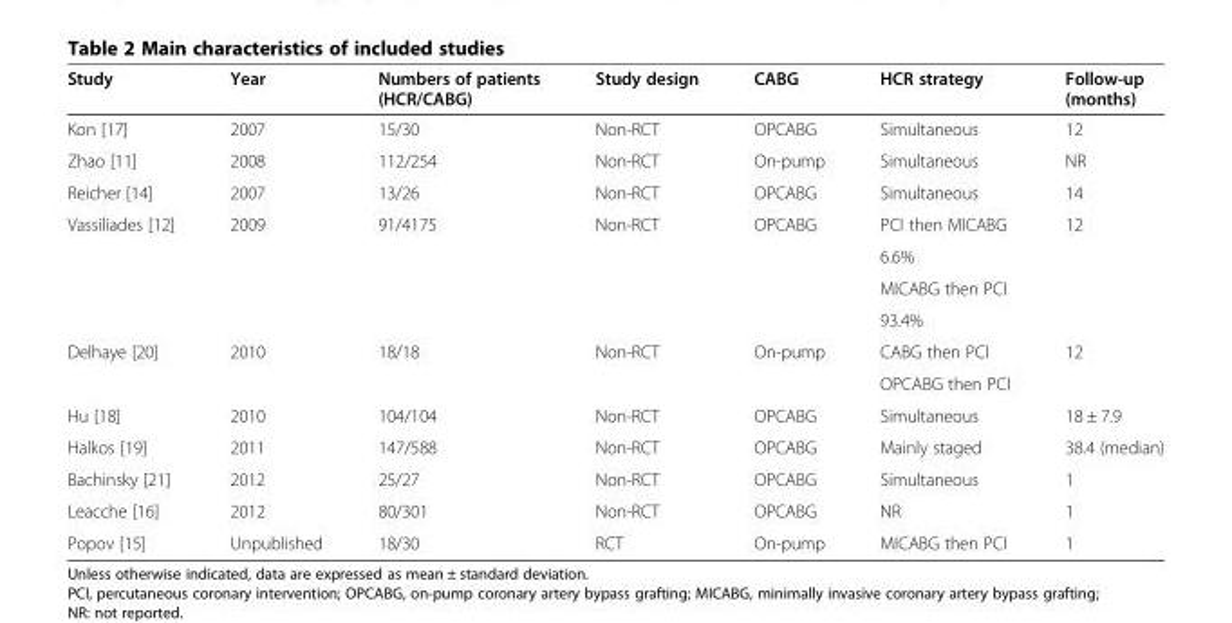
<table><thead><tr><td>Study</td><td>Year</td><td>Numbers of patients (HCR/CABG)</td><td>Study design</td><td>CABG</td><td>HCR strategy</td><td>Follow-up (months)</td></tr></thead><tbody><tr><td>Kon [17]</td><td>2007</td><td>15/30</td><td>Non-RCT</td><td>OPCABG</td><td>Simultaneous</td><td>12</td></tr><tr><td>Zhao [11]</td><td>2008</td><td>112/254</td><td>Non-RCT</td><td>On-pump</td><td>Simultaneous</td><td>NR</td></tr><tr><td>Reicher [14]</td><td>2007</td><td>13/26</td><td>Non-RCT</td><td>OPCABG</td><td>Simultaneous</td><td>14</td></tr><tr><td rowspan="4">Vassiliades [12]</td><td rowspan="4">2009</td><td rowspan="4">91/4175</td><td rowspan="4">Non-RCT</td><td rowspan="4">OPCABG</td><td>PCI then MICABG</td><td rowspan="4">12</td></tr><tr><td>6.6%</td></tr><tr><td>MICABG then PCI</td></tr><tr><td>93.4%</td></tr><tr><td rowspan="2">Delhaye [20]</td><td rowspan="2">2010</td><td rowspan="2">18/18</td><td rowspan="2">Non-RCT</td><td rowspan="2">On-pump</td><td>CABG then PCI</td><td rowspan="2">12</td></tr><tr><td>OPCABG then PCI</td></tr><tr><td>Hu [18]</td><td>2010</td><td>104/104</td><td>Non-RCT</td><td>OPCABG</td><td>Simultaneous</td><td>18 ± 7.9</td></tr><tr><td>Halkos [19]</td><td>2011</td><td>147/588</td><td>Non-RCT</td><td>OPCABG</td><td>Mainly staged</td><td>38.4 (median)</td></tr><tr><td>Bachinsky [21]</td><td>2012</td><td>25/27</td><td>Non-RCT</td><td>OPCABG</td><td>Simultaneous</td><td>1</td></tr><tr><td>Leacche [16]</td><td>2012</td><td>80/301</td><td>Non-RCT</td><td>OPCABG</td><td>NR</td><td>1</td></tr><tr><td>Popov [15]</td><td>Unpublished</td><td>18/30</td><td>RCT</td><td>On-pump</td><td>MICABG then PCI</td><td>1</td></tr></tbody></table>